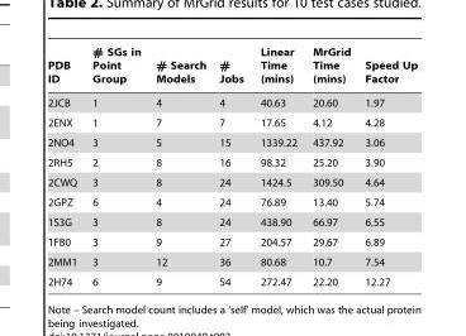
<table><thead><tr><td>PDB ID</td><td># SGs in Point Group</td><td># Search Models</td><td># Jobs</td><td>Linear Time (mins)</td><td>MrGrid Time (mins)</td><td>Speed Up Factor</td></tr></thead><tbody><tr><td>2JCB</td><td>1</td><td>4</td><td>4</td><td>40.63</td><td>20.60</td><td>1.97</td></tr><tr><td>2ENX</td><td>1</td><td>7</td><td>7</td><td>17.65</td><td>4.12</td><td>4.28</td></tr><tr><td>2NO4</td><td>3</td><td>5</td><td>15</td><td>1339.22</td><td>437.92</td><td>3.06</td></tr><tr><td>2RH5</td><td>2</td><td>8</td><td>16</td><td>98.32</td><td>25.20</td><td>3.90</td></tr><tr><td>2CWQ</td><td>3</td><td>8</td><td>24</td><td>1424.5</td><td>309.50</td><td>4.64</td></tr><tr><td>2GPZ</td><td>6</td><td>4</td><td>24</td><td>76.89</td><td>13.40</td><td>5.74</td></tr><tr><td>1S3G</td><td>3</td><td>8</td><td>24</td><td>438.90</td><td>66.97</td><td>6.55</td></tr><tr><td>1FB0</td><td>3</td><td>9</td><td>27</td><td>204.57</td><td>29.67</td><td>6.89</td></tr><tr><td>2MM1</td><td>3</td><td>12</td><td>36</td><td>80.68</td><td>10.7</td><td>7.54</td></tr><tr><td>2H74</td><td>6</td><td>9</td><td>54</td><td>272.47</td><td>22.20</td><td>12.27</td></tr></tbody></table>